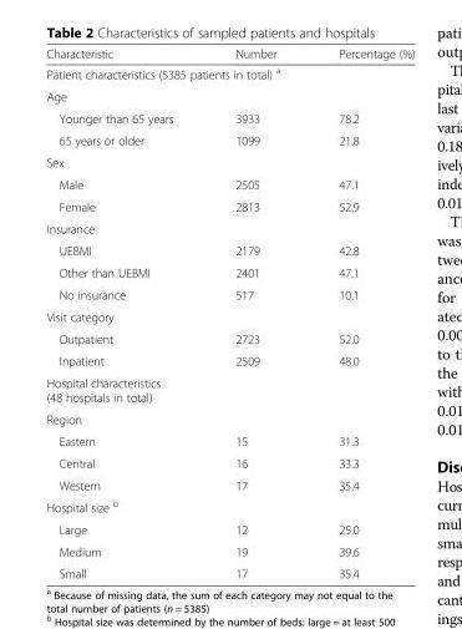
<table><thead><tr><td>Characteristic</td><td>Number</td><td>Percentage (%)</td></tr></thead><tbody><tr><td colspan="3">Patient characteristics (5385 patients in total) <sup>a</sup></td></tr><tr><td colspan="3">Age</td></tr><tr><td>Younger than 65 years</td><td>3933</td><td>78.2</td></tr><tr><td>65 years or older</td><td>1099</td><td>21.8</td></tr><tr><td colspan="3">Sex</td></tr><tr><td>Male</td><td>2505</td><td>47.1</td></tr><tr><td>Female</td><td>2813</td><td>52.9</td></tr><tr><td colspan="3">Insurance</td></tr><tr><td>UEBMI</td><td>2179</td><td>42.8</td></tr><tr><td>Other than UEBMI</td><td>2401</td><td>47.1</td></tr><tr><td>No insurance</td><td>517</td><td>10.1</td></tr><tr><td colspan="3">Visit category</td></tr><tr><td>Outpatient</td><td>2723</td><td>52.0</td></tr><tr><td>Inpatient</td><td>2509</td><td>48.0</td></tr><tr><td colspan="3">Hospital characteristics (48 hospitals in total)</td></tr><tr><td colspan="3">Region</td></tr><tr><td>Eastern</td><td>15</td><td>31.3</td></tr><tr><td>Central</td><td>16</td><td>33.3</td></tr><tr><td>Western</td><td>17</td><td>35.4</td></tr><tr><td colspan="3">Hospital size <sup>b</sup></td></tr><tr><td>Large</td><td>12</td><td>25.0</td></tr><tr><td>Medium</td><td>19</td><td>39.6</td></tr><tr><td>Small</td><td>17</td><td>35.4</td></tr></tbody></table>